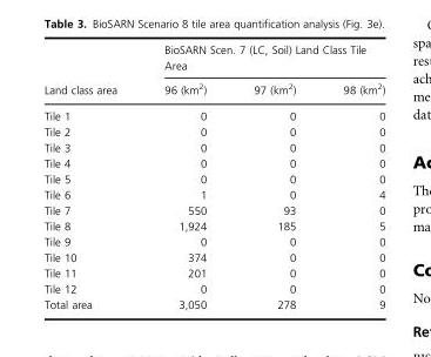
<table><thead><tr><td rowspan="2">Land class area</td><td colspan="3">BioSARN Scen. 7 (LC, Soil) Land Class Tile Area</td></tr><tr><td>96 (km<sup>2</sup>)</td><td>97 (km<sup>2</sup>)</td><td>98 (km<sup>2</sup>)</td></tr></thead><tbody><tr><td>Tile 1</td><td>0</td><td>0</td><td>0</td></tr><tr><td>Tile 2</td><td>0</td><td>0</td><td>0</td></tr><tr><td>Tile 3</td><td>0</td><td>0</td><td>0</td></tr><tr><td>Tile 4</td><td>0</td><td>0</td><td>0</td></tr><tr><td>Tile 5</td><td>0</td><td>0</td><td>0</td></tr><tr><td>Tile 6</td><td>1</td><td>0</td><td>4</td></tr><tr><td>Tile 7</td><td>550</td><td>93</td><td>0</td></tr><tr><td>Tile 8</td><td>1,924</td><td>185</td><td>5</td></tr><tr><td>Tile 9</td><td>0</td><td>0</td><td>0</td></tr><tr><td>Tile 10</td><td>374</td><td>0</td><td>0</td></tr><tr><td>Tile 11</td><td>201</td><td>0</td><td>0</td></tr><tr><td>Tile 12</td><td>0</td><td>0</td><td>0</td></tr><tr><td>Total area</td><td>3,050</td><td>278</td><td>9</td></tr></tbody></table>